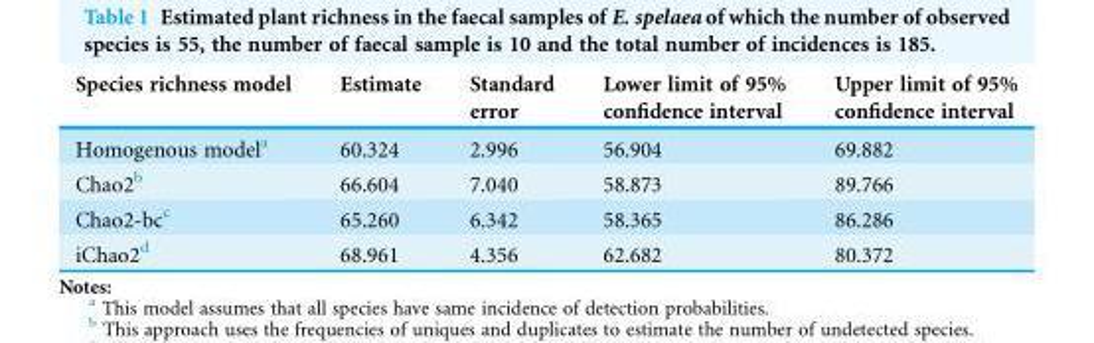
<table><thead><tr><td>Species richness model</td><td>Estimate</td><td>Standard error</td><td>Lower limit of 95% confidence interval</td><td>Upper limit of 95% confidence interval</td></tr></thead><tbody><tr><td>Homogenous model<sup>a</sup></td><td>60.324</td><td>2.996</td><td>56.904</td><td>69.882</td></tr><tr><td>Chao2<sup>b</sup></td><td>66.604</td><td>7.040</td><td>58.873</td><td>89.766</td></tr><tr><td>Chao2-bc<sup>c</sup></td><td>65.260</td><td>6.342</td><td>58.365</td><td>86.286</td></tr><tr><td>iChao2<sup>d</sup></td><td>68.961</td><td>4.356</td><td>62.682</td><td>80.372</td></tr></tbody></table>